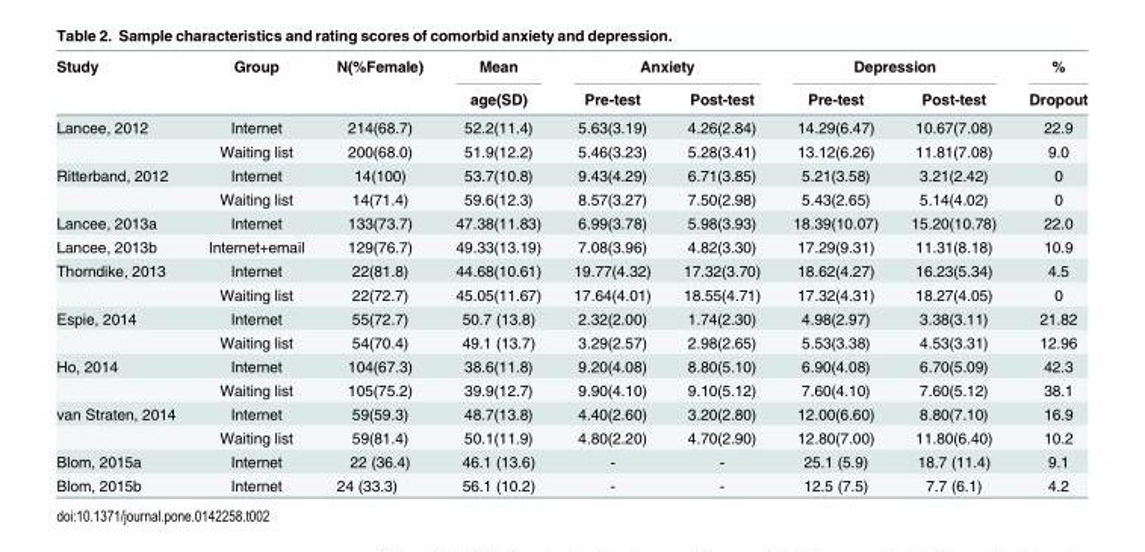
<table><thead><tr><td rowspan="2">Study</td><td rowspan="2">Group</td><td rowspan="2">N(%Female)</td><td rowspan="2">Mean age(SD)</td><td colspan="2">Anxiety</td><td colspan="2">Depression</td><td rowspan="2">% Dropout</td></tr><tr><td>Pre-test</td><td>Post-test</td><td>Pre-test</td><td>Post-test</td></tr></thead><tbody><tr><td rowspan="2">Lancee, 2012</td><td>Internet</td><td>214(68.7)</td><td>52.2(11.4)</td><td>5.63(3.19)</td><td>4.26(2.84)</td><td>14.29(6.47)</td><td>10.67(7.08)</td><td>22.9</td></tr><tr><td>Waiting list</td><td>200(68.0)</td><td>51.9(12.2)</td><td>5.46(3.23)</td><td>5.28(3.41)</td><td>13.12(6.26)</td><td>11.81(7.08)</td><td>9.0</td></tr><tr><td rowspan="2">Ritterband, 2012</td><td>Internet</td><td>14(100)</td><td>53.7(10.8)</td><td>9.43(4.29)</td><td>6.71(3.85)</td><td>5.21(3.58)</td><td>3.21(2.42)</td><td>0</td></tr><tr><td>Waiting list</td><td>14(71.4)</td><td>59.6(12.3)</td><td>8.57(3.27)</td><td>7.50(2.98)</td><td>5.43(2.65)</td><td>5.14(4.02)</td><td>0</td></tr><tr><td>Lancee, 2013a</td><td>Internet</td><td>133(73.7)</td><td>47.38(11.83)</td><td>6.99(3.78)</td><td>5.98(3.93)</td><td>18.39(10.07)</td><td>15.20(10.78)</td><td>22.0</td></tr><tr><td>Lancee, 2013b</td><td>Internet+email</td><td>129(76.7)</td><td>49.33(13.19)</td><td>7.08(3.96)</td><td>4.82(3.30)</td><td>17.29(9.31)</td><td>11.31(8.18)</td><td>10.9</td></tr><tr><td rowspan="2">Thorndike, 2013</td><td>Internet</td><td>22(81.8)</td><td>44.68(10.61)</td><td>19.77(4.32)</td><td>17.32(3.70)</td><td>18.62(4.27)</td><td>16.23(5.34)</td><td>4.5</td></tr><tr><td>Waiting list</td><td>22(72.7)</td><td>45.05(11.67)</td><td>17.64(4.01)</td><td>18.55(4.71)</td><td>17.32(4.31)</td><td>18.27(4.05)</td><td>0</td></tr><tr><td rowspan="2">Espie, 2014</td><td>Internet</td><td>55(72.7)</td><td>50.7 (13.8)</td><td>2.32(2.00)</td><td>1.74(2.30)</td><td>4.98(2.97)</td><td>3.38(3.11)</td><td>21.82</td></tr><tr><td>Waiting list</td><td>54(70.4)</td><td>49.1 (13.7)</td><td>3.29(2.57)</td><td>2.98(2.65)</td><td>5.53(3.38)</td><td>4.53(3.31)</td><td>12.96</td></tr><tr><td rowspan="2">Ho, 2014</td><td>Internet</td><td>104(67.3)</td><td>38.6(11.8)</td><td>9.20(4.08)</td><td>8.80(5.10)</td><td>6.90(4.08)</td><td>6.70(5.09)</td><td>42.3</td></tr><tr><td>Waiting list</td><td>105(75.2)</td><td>39.9(12.7)</td><td>9.90(4.10)</td><td>9.10(5.12)</td><td>7.60(4.10)</td><td>7.60(5.12)</td><td>38.1</td></tr><tr><td rowspan="2">van Straten, 2014</td><td>Internet</td><td>59(59.3)</td><td>48.7(13.8)</td><td>4.40(2.60)</td><td>3.20(2.80)</td><td>12.00(6.60)</td><td>8.80(7.10)</td><td>16.9</td></tr><tr><td>Waiting list</td><td>59(81.4)</td><td>50.1(11.9)</td><td>4.80(2.20)</td><td>4.70(2.90)</td><td>12.80(7.00)</td><td>11.80(6.40)</td><td>10.2</td></tr><tr><td>Blom, 2015a</td><td>Internet</td><td>22 (36.4)</td><td>46.1 (13.6)</td><td>-</td><td>-</td><td>25.1 (5.9)</td><td>18.7 (11.4)</td><td>9.1</td></tr><tr><td>Blom, 2015b</td><td>Internet</td><td>24 (33.3)</td><td>56.1 (10.2)</td><td>-</td><td>-</td><td>12.5 (7.5)</td><td>7.7 (6.1)</td><td>4.2</td></tr></tbody></table>